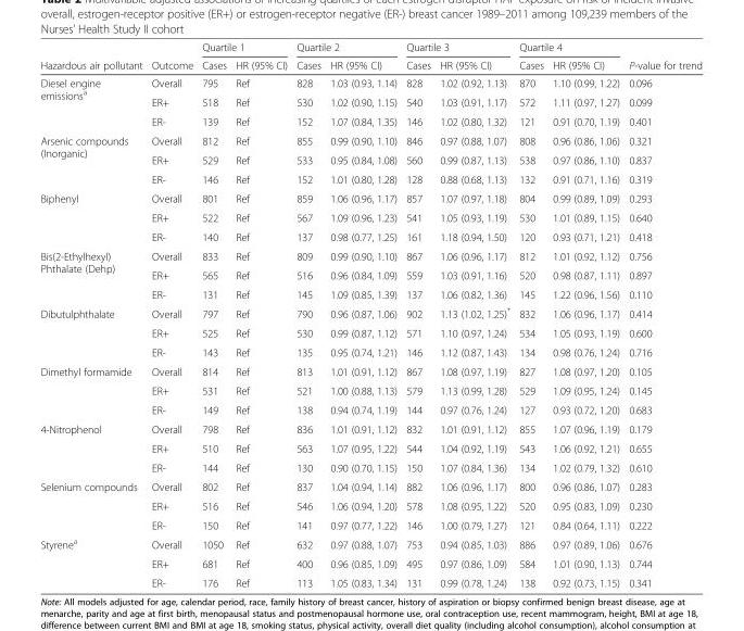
<table><thead><tr><td rowspan="2">Hazardous air pollutant</td><td rowspan="2">Outcome</td><td colspan="2">Quartile 1</td><td colspan="2">Quartile 2</td><td colspan="2">Quartile 3</td><td colspan="2">Quartile 4</td><td rowspan="2">P-value for trend</td></tr><tr><td>Cases</td><td>HR (95% CI)</td><td>Cases</td><td>HR (95% CI)</td><td>Cases</td><td>HR (95% CI)</td><td>Cases</td><td>HR (95% CI)</td></tr></thead><tbody><tr><td rowspan="3">Diesel engine emissions<sup>a</sup></td><td>Overall</td><td>795</td><td>Ref</td><td>828</td><td>1.03 (0.93, 1.14)</td><td>828</td><td>1.02 (0.92, 1.13)</td><td>870</td><td>1.10 (0.99, 1.22)</td><td>0.096</td></tr><tr><td>ER+</td><td>518</td><td>Ref</td><td>530</td><td>1.02 (0.90, 1.15)</td><td>540</td><td>1.03 (0.91, 1.17)</td><td>572</td><td>1.11 (0.97, 1.27)</td><td>0.099</td></tr><tr><td>ER-</td><td>139</td><td>Ref</td><td>152</td><td>1.07 (0.84, 1.35)</td><td>146</td><td>1.02 (0.80, 1.32)</td><td>121</td><td>0.91 (0.70, 1.19)</td><td>0.401</td></tr><tr><td rowspan="3">Arsenic compounds (Inorganic)</td><td>Overall</td><td>812</td><td>Ref</td><td>855</td><td>0.99 (0.90, 1.10)</td><td>846</td><td>0.97 (0.88, 1.07)</td><td>808</td><td>0.96 (0.86, 1.06)</td><td>0.321</td></tr><tr><td>ER+</td><td>529</td><td>Ref</td><td>533</td><td>0.95 (0.84, 1.08)</td><td>560</td><td>0.99 (0.87, 1.13)</td><td>538</td><td>0.97 (0.86, 1.10)</td><td>0.837</td></tr><tr><td>ER-</td><td>146</td><td>Ref</td><td>152</td><td>1.01 (0.80, 1.28)</td><td>128</td><td>0.88 (0.68, 1.13)</td><td>132</td><td>0.91 (0.71, 1.16)</td><td>0.319</td></tr><tr><td rowspan="3">Biphenyl</td><td>Overall</td><td>801</td><td>Ref</td><td>859</td><td>1.06 (0.96, 1.17)</td><td>857</td><td>1.07 (0.97, 1.18)</td><td>804</td><td>0.99 (0.89, 1.09)</td><td>0.293</td></tr><tr><td>ER+</td><td>522</td><td>Ref</td><td>567</td><td>1.09 (0.96, 1.23)</td><td>541</td><td>1.05 (0.93, 1.19)</td><td>530</td><td>1.01 (0.89, 1.15)</td><td>0.640</td></tr><tr><td>ER-</td><td>140</td><td>Ref</td><td>137</td><td>0.98 (0.77, 1.25)</td><td>161</td><td>1.18 (0.94, 1.50)</td><td>120</td><td>0.93 (0.71, 1.21)</td><td>0.418</td></tr><tr><td rowspan="3">Bis(2-Ethylhexyl) Phthalate (Dehp)</td><td>Overall</td><td>833</td><td>Ref</td><td>809</td><td>0.99 (0.90, 1.10)</td><td>867</td><td>1.06 (0.96, 1.17)</td><td>812</td><td>1.01 (0.92, 1.12)</td><td>0.756</td></tr><tr><td>ER+</td><td>565</td><td>Ref</td><td>516</td><td>0.96 (0.84, 1.09)</td><td>559</td><td>1.03 (0.91, 1.16)</td><td>520</td><td>0.98 (0.87, 1.11)</td><td>0.897</td></tr><tr><td>ER-</td><td>131</td><td>Ref</td><td>145</td><td>1.09 (0.85, 1.39)</td><td>137</td><td>1.06 (0.82, 1.36)</td><td>145</td><td>1.22 (0.96, 1.56)</td><td>0.110</td></tr><tr><td rowspan="3">Dibutulphthalate</td><td>Overall</td><td>797</td><td>Ref</td><td>790</td><td>0.96 (0.87, 1.06)</td><td>902</td><td>1.13 (1.02, 1.25)*</td><td>832</td><td>1.06 (0.96, 1.17)</td><td>0.414</td></tr><tr><td>ER+</td><td>525</td><td>Ref</td><td>530</td><td>0.99 (0.87, 1.12)</td><td>571</td><td>1.10 (0.97, 1.24)</td><td>534</td><td>1.05 (0.93, 1.19)</td><td>0.600</td></tr><tr><td>ER-</td><td>143</td><td>Ref</td><td>135</td><td>0.95 (0.74, 1.21)</td><td>146</td><td>1.12 (0.87, 1.43)</td><td>134</td><td>0.98 (0.76, 1.24)</td><td>0.716</td></tr><tr><td rowspan="3">Dimethyl formamide</td><td>Overall</td><td>814</td><td>Ref</td><td>813</td><td>1.01 (0.91, 1.12)</td><td>867</td><td>1.08 (0.97, 1.19)</td><td>827</td><td>1.08 (0.97, 1.20)</td><td>0.105</td></tr><tr><td>ER+</td><td>531</td><td>Ref</td><td>521</td><td>1.00 (0.88, 1.13)</td><td>579</td><td>1.13 (0.99, 1.28)</td><td>529</td><td>1.09 (0.95, 1.24)</td><td>0.145</td></tr><tr><td>ER-</td><td>149</td><td>Ref</td><td>138</td><td>0.94 (0.74, 1.19)</td><td>144</td><td>0.97 (0.76, 1.24)</td><td>127</td><td>0.93 (0.72, 1.20)</td><td>0.683</td></tr><tr><td rowspan="3">4-Nitrophenol</td><td>Overall</td><td>798</td><td>Ref</td><td>836</td><td>1.01 (0.91, 1.12)</td><td>832</td><td>1.01 (0.91, 1.12)</td><td>855</td><td>1.07 (0.96, 1.19)</td><td>0.179</td></tr><tr><td>ER+</td><td>510</td><td>Ref</td><td>563</td><td>1.07 (0.95, 1.22)</td><td>544</td><td>1.04 (0.92, 1.19)</td><td>543</td><td>1.06 (0.92, 1.21)</td><td>0.655</td></tr><tr><td>ER-</td><td>144</td><td>Ref</td><td>130</td><td>0.90 (0.70, 1.15)</td><td>150</td><td>1.07 (0.84, 1.36)</td><td>134</td><td>1.02 (0.79, 1.32)</td><td>0.610</td></tr><tr><td rowspan="3">Selenium compounds</td><td>Overall</td><td>802</td><td>Ref</td><td>837</td><td>1.04 (0.94, 1.14)</td><td>882</td><td>1.06 (0.96, 1.17)</td><td>800</td><td>0.96 (0.86, 1.07)</td><td>0.283</td></tr><tr><td>ER+</td><td>516</td><td>Ref</td><td>546</td><td>1.06 (0.94, 1.20)</td><td>578</td><td>1.08 (0.95, 1.22)</td><td>520</td><td>0.95 (0.83, 1.09)</td><td>0.230</td></tr><tr><td>ER-</td><td>150</td><td>Ref</td><td>141</td><td>0.97 (0.77, 1.22)</td><td>146</td><td>1.00 (0.79, 1.27)</td><td>121</td><td>0.84 (0.64, 1.11)</td><td>0.222</td></tr><tr><td rowspan="3">Styrene<sup>a</sup></td><td>Overall</td><td>1050</td><td>Ref</td><td>632</td><td>0.97 (0.88, 1.07)</td><td>753</td><td>0.94 (0.85, 1.03)</td><td>886</td><td>0.97 (0.89, 1.06)</td><td>0.676</td></tr><tr><td>ER+</td><td>681</td><td>Ref</td><td>400</td><td>0.96 (0.85, 1.09)</td><td>495</td><td>0.97 (0.86, 1.09)</td><td>584</td><td>1.01 (0.90, 1.13)</td><td>0.744</td></tr><tr><td>ER-</td><td>176</td><td>Ref</td><td>113</td><td>1.05 (0.83, 1.34)</td><td>131</td><td>0.99 (0.78, 1.24)</td><td>138</td><td>0.92 (0.73, 1.15)</td><td>0.341</td></tr></tbody></table>